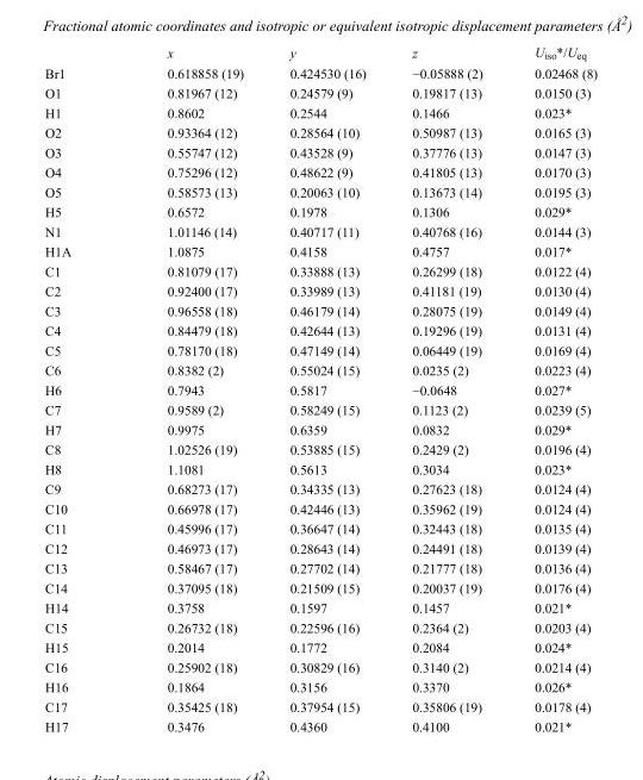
<table><thead><tr><td></td><td>x</td><td>y</td><td>z</td><td>U<sub>iso</sub>*/U<sub>eq</sub></td></tr></thead><tbody><tr><td>Br1</td><td>0.618858 (19)</td><td>0.424530 (16)</td><td>−0.05888 (2)</td><td>0.02468 (8)</td></tr><tr><td>O1</td><td>0.81967 (12)</td><td>0.24579 (9)</td><td>0.19817 (13)</td><td>0.0150 (3)</td></tr><tr><td>H1</td><td>0.8602</td><td>0.2544</td><td>0.1466</td><td>0.023*</td></tr><tr><td>O2</td><td>0.93364 (12)</td><td>0.28564 (10)</td><td>0.50987 (13)</td><td>0.0165 (3)</td></tr><tr><td>O3</td><td>0.55747 (12)</td><td>0.43528 (9)</td><td>0.37776 (13)</td><td>0.0147 (3)</td></tr><tr><td>O4</td><td>0.75296 (12)</td><td>0.48622 (9)</td><td>0.41805 (13)</td><td>0.0170 (3)</td></tr><tr><td>O5</td><td>0.58573 (13)</td><td>0.20063 (10)</td><td>0.13673 (14)</td><td>0.0195 (3)</td></tr><tr><td>H5</td><td>0.6572</td><td>0.1978</td><td>0.1306</td><td>0.029*</td></tr><tr><td>N1</td><td>1.01146 (14)</td><td>0.40717 (11)</td><td>0.40768 (16)</td><td>0.0144 (3)</td></tr><tr><td>H1A</td><td>1.0875</td><td>0.4158</td><td>0.4757</td><td>0.017*</td></tr><tr><td>C1</td><td>0.81079 (17)</td><td>0.33888 (13)</td><td>0.26299 (18)</td><td>0.0122 (4)</td></tr><tr><td>C2</td><td>0.92400 (17)</td><td>0.33989 (13)</td><td>0.41181 (19)</td><td>0.0130 (4)</td></tr><tr><td>C3</td><td>0.96558 (18)</td><td>0.46179 (14)</td><td>0.28075 (19)</td><td>0.0149 (4)</td></tr><tr><td>C4</td><td>0.84479 (18)</td><td>0.42644 (13)</td><td>0.19296 (19)</td><td>0.0131 (4)</td></tr><tr><td>C5</td><td>0.78170 (18)</td><td>0.47149 (14)</td><td>0.06449 (19)</td><td>0.0169 (4)</td></tr><tr><td>C6</td><td>0.8382 (2)</td><td>0.55024 (15)</td><td>0.0235 (2)</td><td>0.0223 (4)</td></tr><tr><td>H6</td><td>0.7943</td><td>0.5817</td><td>−0.0648</td><td>0.027*</td></tr><tr><td>C7</td><td>0.9589 (2)</td><td>0.58249 (15)</td><td>0.1123 (2)</td><td>0.0239 (5)</td></tr><tr><td>H7</td><td>0.9975</td><td>0.6359</td><td>0.0832</td><td>0.029*</td></tr><tr><td>C8</td><td>1.02526 (19)</td><td>0.53885 (15)</td><td>0.2429 (2)</td><td>0.0196 (4)</td></tr><tr><td>H8</td><td>1.1081</td><td>0.5613</td><td>0.3034</td><td>0.023*</td></tr><tr><td>C9</td><td>0.68273 (17)</td><td>0.34335 (13)</td><td>0.27623 (18)</td><td>0.0124 (4)</td></tr><tr><td>C10</td><td>0.66978 (17)</td><td>0.42446 (13)</td><td>0.35962 (19)</td><td>0.0124 (4)</td></tr><tr><td>C11</td><td>0.45996 (17)</td><td>0.36647 (14)</td><td>0.32443 (18)</td><td>0.0135 (4)</td></tr><tr><td>C12</td><td>0.46973 (17)</td><td>0.28643 (14)</td><td>0.24491 (18)</td><td>0.0139 (4)</td></tr><tr><td>C13</td><td>0.58467 (17)</td><td>0.27702 (14)</td><td>0.21777 (18)</td><td>0.0136 (4)</td></tr><tr><td>C14</td><td>0.37095 (18)</td><td>0.21509 (15)</td><td>0.20037 (19)</td><td>0.0176 (4)</td></tr><tr><td>H14</td><td>0.3758</td><td>0.1597</td><td>0.1457</td><td>0.021*</td></tr><tr><td>C15</td><td>0.26732 (18)</td><td>0.22596 (16)</td><td>0.2364 (2)</td><td>0.0203 (4)</td></tr><tr><td>H15</td><td>0.2014</td><td>0.1772</td><td>0.2084</td><td>0.024*</td></tr><tr><td>C16</td><td>0.25902 (18)</td><td>0.30829 (16)</td><td>0.3140 (2)</td><td>0.0214 (4)</td></tr><tr><td>H16</td><td>0.1864</td><td>0.3156</td><td>0.3370</td><td>0.026*</td></tr><tr><td>C17</td><td>0.35425 (18)</td><td>0.37954 (15)</td><td>0.35806 (19)</td><td>0.0178 (4)</td></tr><tr><td>H17</td><td>0.3476</td><td>0.4360</td><td>0.4100</td><td>0.021*</td></tr></tbody></table>